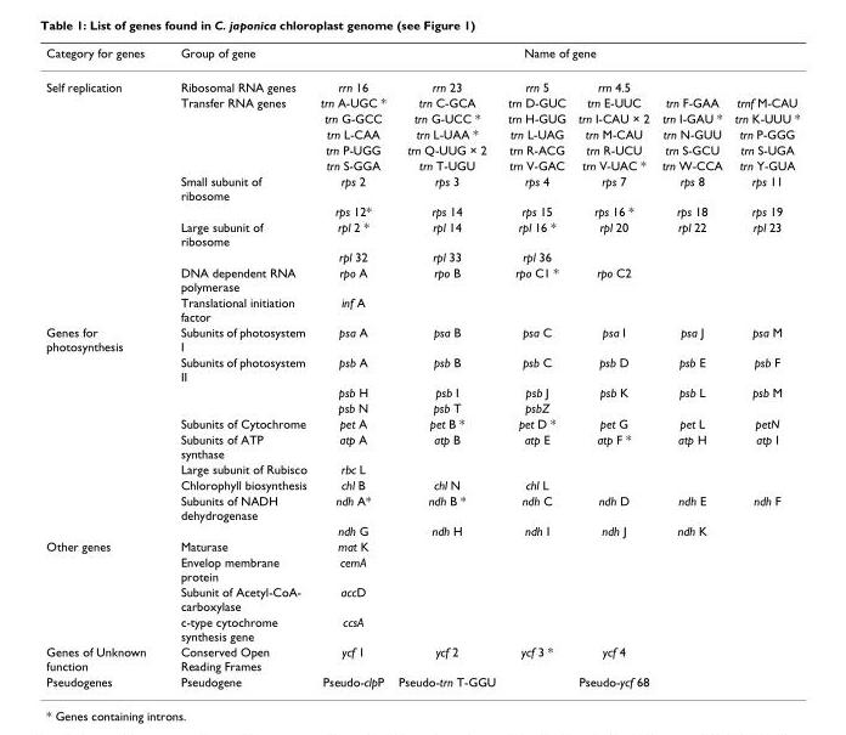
<table><thead><tr><td rowspan="2">Category for genes Self replication</td><td rowspan="2">Group of gene Ribosomal RNA genes</td><td colspan="6">Name of gene</td></tr><tr><td>rrn 16</td><td>rrn 23</td><td>rrn 5</td><td>rrn 4.5</td><td></td><td></td></tr></thead><tbody><tr><td></td><td>Transfer RNA genes</td><td>trn A-UGC *</td><td>trn C-GCA</td><td>trn D-GUC</td><td>trn E-UUC</td><td>trn F-GAA</td><td>trnf M-CAU</td></tr><tr><td></td><td></td><td>trn G-GCC</td><td>trn G-UCC *</td><td>trn H-GUG</td><td>trn I-CAU × 2</td><td>trn I-GAU *</td><td>trn K-UUU *</td></tr><tr><td></td><td></td><td>trn L-CAA</td><td>trn L-UAA *</td><td>trn L-UAG</td><td>trn M-CAU</td><td>trn N-GUU</td><td>trn P-GGG</td></tr><tr><td></td><td></td><td>trn P-UGG</td><td>trn Q-UUG × 2</td><td>trn R-ACG</td><td>trn R-UCU</td><td>trn S-GCU</td><td>trn S-UGA</td></tr><tr><td></td><td></td><td>trn S-GGA</td><td>trn T-UGU</td><td>trn V-GAC</td><td>trn V-UAC *</td><td>trn W-CCA</td><td>trn Y-GUA</td></tr><tr><td></td><td>Small subunit of ribosome</td><td>rps 2</td><td>rps 3</td><td>rps 4</td><td>rps 7</td><td>rps 8</td><td>rps 11</td></tr><tr><td></td><td></td><td>rps 12*</td><td>rps 14</td><td>rps 15</td><td>rps 16 *</td><td>rps 18</td><td>rps 19</td></tr><tr><td></td><td>Large subunit of ribosome</td><td>rpl 2 *</td><td>rpl 14</td><td>rpl 16 *</td><td>rpl 20</td><td>rpl 22</td><td>rpl 23</td></tr><tr><td></td><td></td><td>rpl 32</td><td>rpl 33</td><td>rpl 36</td><td></td><td></td><td></td></tr><tr><td></td><td>DNA dependent RNA polymerase</td><td>rpo A</td><td>rpo B</td><td>rpo C1 *</td><td>rpo C2</td><td></td><td></td></tr><tr><td></td><td>Translational initiation factor</td><td>inf A</td><td></td><td></td><td></td><td></td><td></td></tr><tr><td rowspan="10">Genes for photosynthesis</td><td>Subunits of photosystem I</td><td>psa A</td><td>psa B</td><td>psa C</td><td>psa I</td><td>psa J</td><td>psa M</td></tr><tr><td>Subunits of photosystem II</td><td>psb A</td><td>psb B</td><td>psb C</td><td>psb D</td><td>psb E</td><td>psb F</td></tr><tr><td></td><td>psb H</td><td>psb I</td><td>psb J</td><td>psb K</td><td>psb L</td><td>psb M</td></tr><tr><td></td><td>psb N</td><td>psb T</td><td>psbZ</td><td></td><td></td><td></td></tr><tr><td>Subunits of Cytochrome</td><td>pet A</td><td>pet B *</td><td>pet D *</td><td>pet G</td><td>pet L</td><td>petN</td></tr><tr><td>Subunits of ATP synthase</td><td>atp A</td><td>atp B</td><td>atp E</td><td>atp F *</td><td>atp H</td><td>atp I</td></tr><tr><td>Large subunit of Rubisco</td><td>rbc L</td><td></td><td></td><td></td><td></td><td></td></tr><tr><td>Chlorophyll biosynthesis</td><td>chl B</td><td>chl N</td><td>chl L</td><td></td><td></td><td></td></tr><tr><td>Subunits of NADH dehydrogenase</td><td>ndh A*</td><td>ndh B *</td><td>ndh C</td><td>ndh D</td><td>ndh E</td><td>ndh F</td></tr><tr><td></td><td>ndh G</td><td>ndh H</td><td>ndh I</td><td>ndh J</td><td>ndh K</td><td></td></tr><tr><td rowspan="4">Other genes</td><td>Maturase</td><td>mat K</td><td></td><td></td><td></td><td></td><td></td></tr><tr><td>Envelop membrane protein</td><td>cemA</td><td></td><td></td><td></td><td></td><td></td></tr><tr><td>Subunit of Acetyl-CoA- carboxylase</td><td>accD</td><td></td><td></td><td></td><td></td><td></td></tr><tr><td>c-type cytochrome synthesis gene</td><td>ccsA</td><td></td><td></td><td></td><td></td><td></td></tr><tr><td>Genes of Unknown function</td><td>Conserved Open Reading Frames</td><td>ycf 1</td><td>ycf 2</td><td>ycf 3 *</td><td>ycf 4</td><td></td><td></td></tr><tr><td>Pseudogenes</td><td>Pseudogene</td><td>Pseudo-clpP</td><td>Pseudo-trn T-GGU</td><td></td><td>Pseudo-ycf 68</td><td></td><td></td></tr></tbody></table>